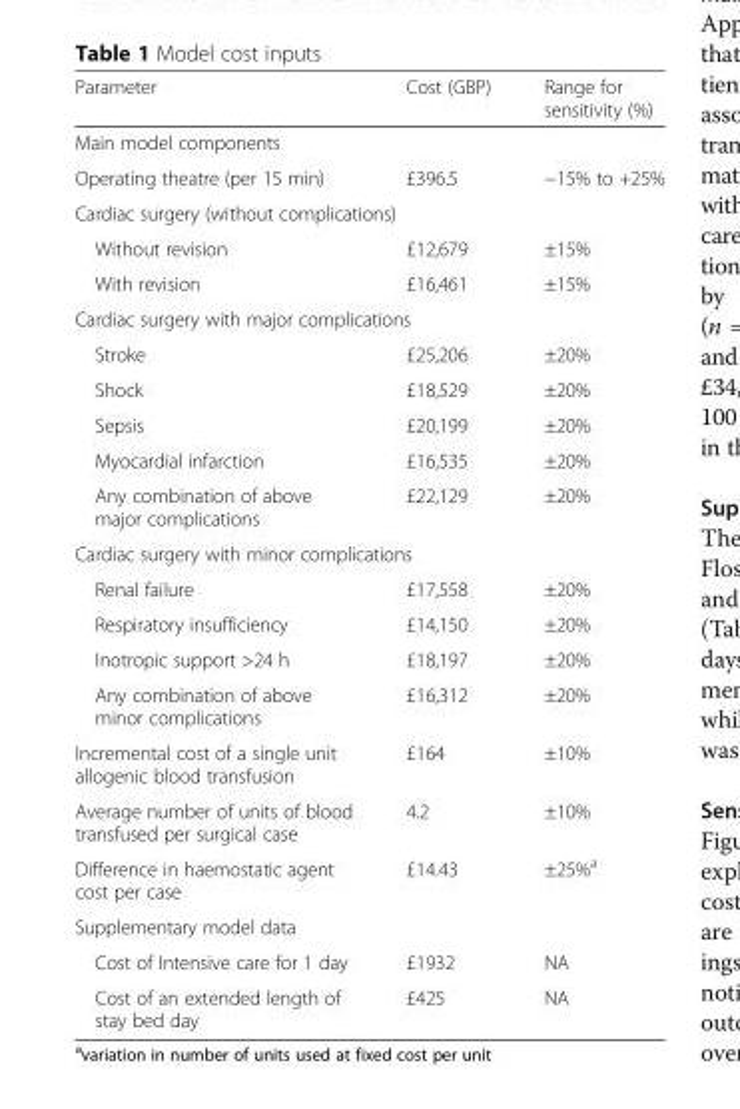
<table><thead><tr><td>Parameter</td><td>Cost (GBP)</td><td>Range for sensitivity (%)</td></tr></thead><tbody><tr><td colspan="3">Main model components</td></tr><tr><td>Operating theatre (per 15 min)</td><td>£396.5</td><td>−15% to +25%</td></tr><tr><td colspan="3">Cardiac surgery (without complications)</td></tr><tr><td>Without revision</td><td>£12,679</td><td>±15%</td></tr><tr><td>With revision</td><td>£16,461</td><td>±15%</td></tr><tr><td colspan="3">Cardiac surgery with major complications</td></tr><tr><td>Stroke</td><td>£25,206</td><td>±20%</td></tr><tr><td>Shock</td><td>£18,529</td><td>±20%</td></tr><tr><td>Sepsis</td><td>£20,199</td><td>±20%</td></tr><tr><td>Myocardial infarction</td><td>£16,535</td><td>±20%</td></tr><tr><td>Any combination of above major complications</td><td>£22,129</td><td>±20%</td></tr><tr><td colspan="3">Cardiac surgery with minor complications</td></tr><tr><td>Renal failure</td><td>£17,558</td><td>±20%</td></tr><tr><td>Respiratory insufficiency</td><td>£14,150</td><td>±20%</td></tr><tr><td>Inotropic support &gt;24 h</td><td>£18,197</td><td>±20%</td></tr><tr><td>Any combination of above minor complications</td><td>£16,312</td><td>±20%</td></tr><tr><td>Incremental cost of a single unit allogenic blood transfusion</td><td>£164</td><td>±10%</td></tr><tr><td>Average number of units of blood transfused per surgical case</td><td>4.2</td><td>±10%</td></tr><tr><td>Difference in haemostatic agent cost per case</td><td>£14.43</td><td>±25%<sup>a</sup></td></tr><tr><td colspan="3">Supplementary model data</td></tr><tr><td>Cost of Intensive care for 1 day</td><td>£1932</td><td>NA</td></tr><tr><td>Cost of an extended length of stay bed day</td><td>£425</td><td>NA</td></tr></tbody></table>